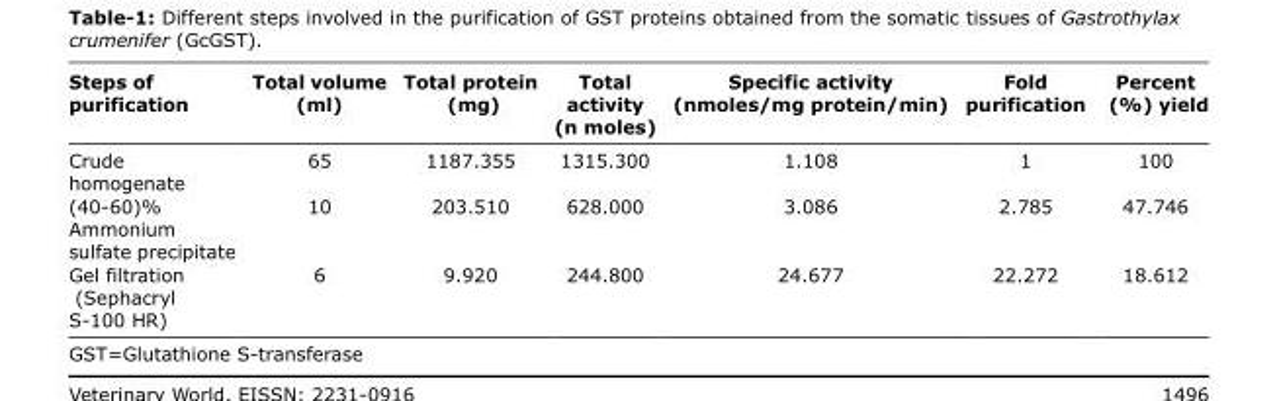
<table><thead><tr><td>Steps of purification</td><td>Total volume (ml)</td><td>Total protein (mg)</td><td>Total activity (n moles)</td><td>Specific activity (nmoles/mg protein/min)</td><td>Fold purification</td><td>Percent (%) yield</td></tr></thead><tbody><tr><td>Crude homogenate</td><td>65</td><td>1187.355</td><td>1315.300</td><td>1.108</td><td>1</td><td>100</td></tr><tr><td>(40-60)% Ammonium sulfate precipitate</td><td>10</td><td>203.510</td><td>628.000</td><td>3.086</td><td>2.785</td><td>47.746</td></tr><tr><td>Gel filtration (Sephacryl S-100 HR)</td><td>6</td><td>9.920</td><td>244.800</td><td>24.677</td><td>22.272</td><td>18.612</td></tr></tbody></table>